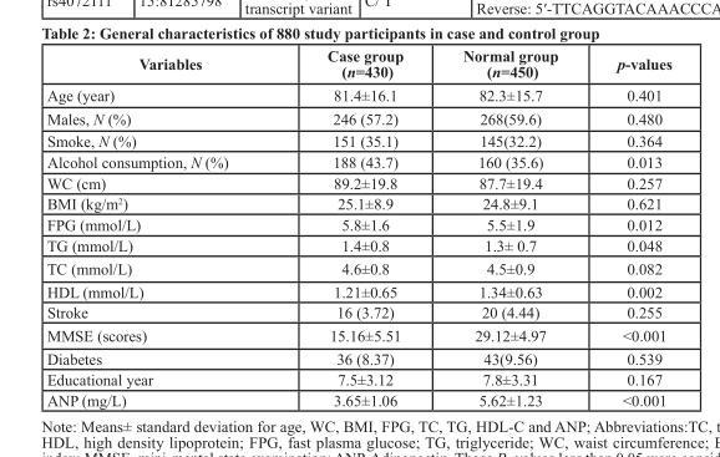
<table><thead><tr><td>Variables</td><td>Case group (n=430)</td><td>Normal group (n=450)</td><td>p-values</td></tr></thead><tbody><tr><td>Age (year)</td><td>81.4±16.1</td><td>82.3±15.7</td><td>0.401</td></tr><tr><td>Males, N (%)</td><td>246 (57.2)</td><td>268(59.6)</td><td>0.480</td></tr><tr><td>Smoke, N (%)</td><td>151 (35.1)</td><td>145(32.2)</td><td>0.364</td></tr><tr><td>Alcohol consumption, N (%)</td><td>188 (43.7)</td><td>160 (35.6)</td><td>0.013</td></tr><tr><td>WC (cm)</td><td>89.2±19.8</td><td>87.7±19.4</td><td>0.257</td></tr><tr><td>BMI (kg/m<sup>2</sup>)</td><td>25.1±8.9</td><td>24.8±9.1</td><td>0.621</td></tr><tr><td>FPG (mmol/L)</td><td>5.8±1.6</td><td>5.5±1.9</td><td>0.012</td></tr><tr><td>TG (mmol/L)</td><td>1.4±0.8</td><td>1.3± 0.7</td><td>0.048</td></tr><tr><td>TC (mmol/L)</td><td>4.6±0.8</td><td>4.5±0.9</td><td>0.082</td></tr><tr><td>HDL (mmol/L)</td><td>1.21±0.65</td><td>1.34±0.63</td><td>0.002</td></tr><tr><td>Stroke</td><td>16 (3.72)</td><td>20 (4.44)</td><td>0.255</td></tr><tr><td>MMSE (scores)</td><td>15.16±5.51</td><td>29.12±4.97</td><td>&lt;0.001</td></tr><tr><td>Diabetes</td><td>36 (8.37)</td><td>43(9.56)</td><td>0.539</td></tr><tr><td>Educational year</td><td>7.5±3.12</td><td>7.8±3.31</td><td>0.167</td></tr><tr><td>ANP (mg/L)</td><td>3.65±1.06</td><td>5.62±1.23</td><td>&lt;0.001</td></tr></tbody></table>